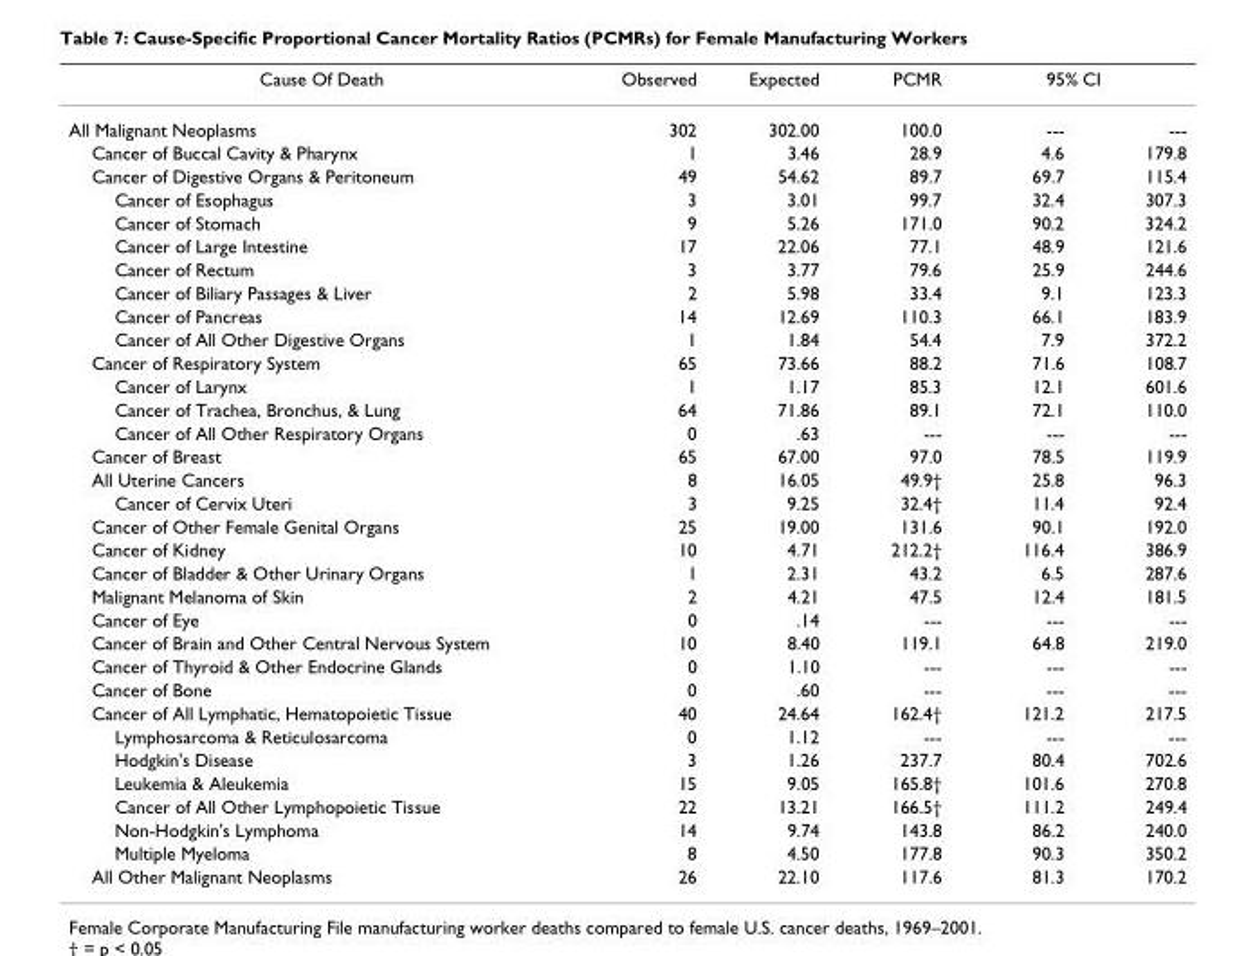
<table><thead><tr><td rowspan="2">Cause Of Death All Malignant Neoplasms</td><td rowspan="2">Observed 302</td><td rowspan="2">Expected 302.00</td><td rowspan="2">PCMR 100.0</td><td colspan="2">95% CI</td></tr><tr><td>---</td><td>---</td></tr></thead><tbody><tr><td>Cancer of Buccal Cavity &amp; Pharynx</td><td>1</td><td>3.46</td><td>28.9</td><td>4.6</td><td>179.8</td></tr><tr><td>Cancer of Digestive Organs &amp; Peritoneum</td><td>49</td><td>54.62</td><td>89.7</td><td>69.7</td><td>115.4</td></tr><tr><td>Cancer of Esophagus</td><td>3</td><td>3.01</td><td>99.7</td><td>32.4</td><td>307.3</td></tr><tr><td>Cancer of Stomach</td><td>9</td><td>5.26</td><td>171.0</td><td>90.2</td><td>324.2</td></tr><tr><td>Cancer of Large Intestine</td><td>17</td><td>22.06</td><td>77.1</td><td>48.9</td><td>121.6</td></tr><tr><td>Cancer of Rectum</td><td>3</td><td>3.77</td><td>79.6</td><td>25.9</td><td>244.6</td></tr><tr><td>Cancer of Biliary Passages &amp; Liver</td><td>2</td><td>5.98</td><td>33.4</td><td>9.1</td><td>123.3</td></tr><tr><td>Cancer of Pancreas</td><td>14</td><td>12.69</td><td>110.3</td><td>66.1</td><td>183.9</td></tr><tr><td>Cancer of All Other Digestive Organs</td><td>1</td><td>1.84</td><td>54.4</td><td>7.9</td><td>372.2</td></tr><tr><td>Cancer of Respiratory System</td><td>65</td><td>73.66</td><td>88.2</td><td>71.6</td><td>108.7</td></tr><tr><td>Cancer of Larynx</td><td>1</td><td>1.17</td><td>85.3</td><td>12.1</td><td>601.6</td></tr><tr><td>Cancer of Trachea, Bronchus, &amp; Lung</td><td>64</td><td>71.86</td><td>89.1</td><td>72.1</td><td>110.0</td></tr><tr><td>Cancer of All Other Respiratory Organs</td><td>0</td><td>.63</td><td>---</td><td>---</td><td>---</td></tr><tr><td>Cancer of Breast</td><td>65</td><td>67.00</td><td>97.0</td><td>78.5</td><td>119.9</td></tr><tr><td>All Uterine Cancers</td><td>8</td><td>16.05</td><td>49.9†</td><td>25.8</td><td>96.3</td></tr><tr><td>Cancer of Cervix Uteri</td><td>3</td><td>9.25</td><td>32.4†</td><td>11.4</td><td>92.4</td></tr><tr><td>Cancer of Other Female Genital Organs</td><td>25</td><td>19.00</td><td>131.6</td><td>90.1</td><td>192.0</td></tr><tr><td>Cancer of Kidney</td><td>10</td><td>4.71</td><td>212.2†</td><td>116.4</td><td>386.9</td></tr><tr><td>Cancer of Bladder &amp; Other Urinary Organs</td><td>1</td><td>2.31</td><td>43.2</td><td>6.5</td><td>287.6</td></tr><tr><td>Malignant Melanoma of Skin</td><td>2</td><td>4.21</td><td>47.5</td><td>12.4</td><td>181.5</td></tr><tr><td>Cancer of Eye</td><td>0</td><td>.14</td><td>---</td><td>---</td><td>---</td></tr><tr><td>Cancer of Brain and Other Central Nervous System</td><td>10</td><td>8.40</td><td>119.1</td><td>64.8</td><td>219.0</td></tr><tr><td>Cancer of Thyroid &amp; Other Endocrine Glands</td><td>0</td><td>1.10</td><td>---</td><td>---</td><td>---</td></tr><tr><td>Cancer of Bone</td><td>0</td><td>.60</td><td>---</td><td>---</td><td>---</td></tr><tr><td>Cancer of All Lymphatic, Hematopoietic Tissue</td><td>40</td><td>24.64</td><td>162.4†</td><td>121.2</td><td>217.5</td></tr><tr><td>Lymphosarcoma &amp; Reticulosarcoma</td><td>0</td><td>1.12</td><td>---</td><td>---</td><td>---</td></tr><tr><td>Hodgkin&#x27;s Disease</td><td>3</td><td>1.26</td><td>237.7</td><td>80.4</td><td>702.6</td></tr><tr><td>Leukemia &amp; Aleukemia</td><td>15</td><td>9.05</td><td>165.8†</td><td>101.6</td><td>270.8</td></tr><tr><td>Cancer of All Other Lymphopoietic Tissue</td><td>22</td><td>13.21</td><td>166.5†</td><td>111.2</td><td>249.4</td></tr><tr><td>Non-Hodgkin&#x27;s Lymphoma</td><td>14</td><td>9.74</td><td>143.8</td><td>86.2</td><td>240.0</td></tr><tr><td>Multiple Myeloma</td><td>8</td><td>4.50</td><td>177.8</td><td>90.3</td><td>350.2</td></tr><tr><td>All Other Malignant Neoplasms</td><td>26</td><td>22.10</td><td>117.6</td><td>81.3</td><td>170.2</td></tr></tbody></table>